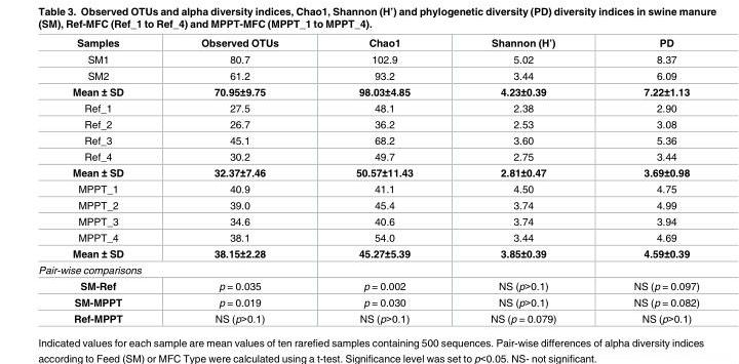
<table><thead><tr><td>Samples</td><td>Observed OTUs</td><td>Chao1</td><td>Shannon (H’)</td><td>PD</td></tr></thead><tbody><tr><td>SM1</td><td>80.7</td><td>102.9</td><td>5.02</td><td>8.37</td></tr><tr><td>SM2</td><td>61.2</td><td>93.2</td><td>3.44</td><td>6.09</td></tr><tr><td>Mean ± SD</td><td>70.95±9.75</td><td>98.03±4.85</td><td>4.23±0.39</td><td>7.22±1.13</td></tr><tr><td>Ref_1</td><td>27.5</td><td>48.1</td><td>2.38</td><td>2.90</td></tr><tr><td>Ref_2</td><td>26.7</td><td>36.2</td><td>2.53</td><td>3.08</td></tr><tr><td>Ref_3</td><td>45.1</td><td>68.2</td><td>3.60</td><td>5.36</td></tr><tr><td>Ref_4</td><td>30.2</td><td>49.7</td><td>2.75</td><td>3.44</td></tr><tr><td>Mean ± SD</td><td>32.37±7.46</td><td>50.57±11.43</td><td>2.81±0.47</td><td>3.69±0.98</td></tr><tr><td>MPPT_1</td><td>40.9</td><td>41.1</td><td>4.50</td><td>4.75</td></tr><tr><td>MPPT_2</td><td>39.0</td><td>45.4</td><td>3.74</td><td>4.99</td></tr><tr><td>MPPT_3</td><td>34.6</td><td>40.6</td><td>3.74</td><td>3.94</td></tr><tr><td>MPPT_4</td><td>38.1</td><td>54.0</td><td>3.44</td><td>4.69</td></tr><tr><td>Mean ± SD</td><td>38.15±2.28</td><td>45.27±5.39</td><td>3.85±0.39</td><td>4.59±0.39</td></tr><tr><td colspan="5">Pair-wise comparisons</td></tr><tr><td>SM-Ref</td><td>p = 0.035</td><td>p = 0.002</td><td>NS (p&gt;0.1)</td><td>NS (p = 0.097)</td></tr><tr><td>SM-MPPT</td><td>p = 0.019</td><td>p = 0.030</td><td>NS (p&gt;0.1)</td><td>NS (p = 0.082)</td></tr><tr><td>Ref-MPPT</td><td>NS (p&gt;0.1)</td><td>NS (p&gt;0.1)</td><td>NS (p = 0.079)</td><td>NS (p&gt;0.1)</td></tr></tbody></table>